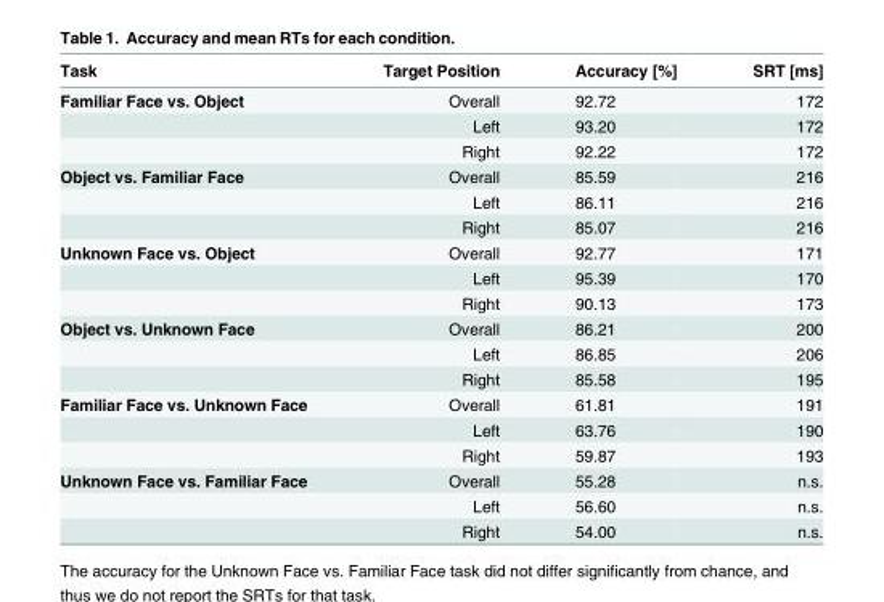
<table><thead><tr><td>Task</td><td>Target Position</td><td>Accuracy [%]</td><td>SRT [ms]</td></tr></thead><tbody><tr><td rowspan="3">Familiar Face vs. Object</td><td>Overall</td><td>92.72</td><td>172</td></tr><tr><td>Left</td><td>93.20</td><td>172</td></tr><tr><td>Right</td><td>92.22</td><td>172</td></tr><tr><td rowspan="3">Object vs. Familiar Face</td><td>Overall</td><td>85.59</td><td>216</td></tr><tr><td>Left</td><td>86.11</td><td>216</td></tr><tr><td>Right</td><td>85.07</td><td>216</td></tr><tr><td rowspan="3">Unknown Face vs. Object</td><td>Overall</td><td>92.77</td><td>171</td></tr><tr><td>Left</td><td>95.39</td><td>170</td></tr><tr><td>Right</td><td>90.13</td><td>173</td></tr><tr><td rowspan="3">Object vs. Unknown Face</td><td>Overall</td><td>86.21</td><td>200</td></tr><tr><td>Left</td><td>86.85</td><td>206</td></tr><tr><td>Right</td><td>85.58</td><td>195</td></tr><tr><td rowspan="3">Familiar Face vs. Unknown Face</td><td>Overall</td><td>61.81</td><td>191</td></tr><tr><td>Left</td><td>63.76</td><td>190</td></tr><tr><td>Right</td><td>59.87</td><td>193</td></tr><tr><td rowspan="3">Unknown Face vs. Familiar Face</td><td>Overall</td><td>55.28</td><td>n.s.</td></tr><tr><td>Left</td><td>56.60</td><td>n.s.</td></tr><tr><td>Right</td><td>54.00</td><td>n.s.</td></tr></tbody></table>